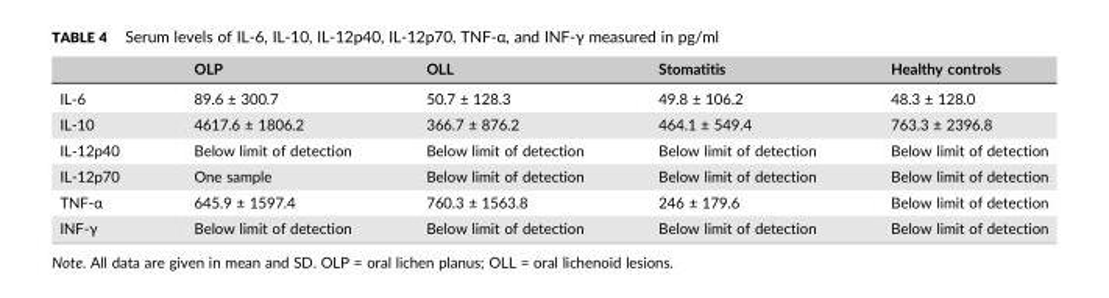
<table><thead><tr><td></td><td>OLP</td><td>OLL</td><td>Stomatitis</td><td>Healthy controls</td></tr></thead><tbody><tr><td>IL‐6</td><td>89.6 ± 300.7</td><td>50.7 ± 128.3</td><td>49.8 ± 106.2</td><td>48.3 ± 128.0</td></tr><tr><td>IL‐10</td><td>4617.6 ± 1806.2</td><td>366.7 ± 876.2</td><td>464.1 ± 549.4</td><td>763.3 ± 2396.8</td></tr><tr><td>IL‐12p40</td><td>Below limit of detection</td><td>Below limit of detection</td><td>Below limit of detection</td><td>Below limit of detection</td></tr><tr><td>IL‐12p70</td><td>One sample</td><td>Below limit of detection</td><td>Below limit of detection</td><td>Below limit of detection</td></tr><tr><td>TNF‐α</td><td>645.9 ± 1597.4</td><td>760.3 ± 1563.8</td><td>246 ± 179.6</td><td>Below limit of detection</td></tr><tr><td>INF‐γ</td><td>Below limit of detection</td><td>Below limit of detection</td><td>Below limit of detection</td><td>Below limit of detection</td></tr></tbody></table>